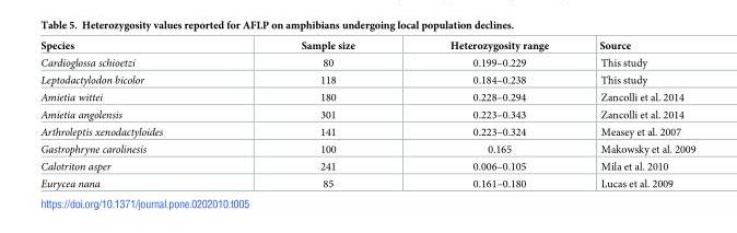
<table><thead><tr><td>Species</td><td>Sample size</td><td>Heterozygosity range</td><td>Source</td></tr></thead><tbody><tr><td>Cardioglossa schioetzi</td><td>80</td><td>0.199–0.229</td><td>This study</td></tr><tr><td>Leptodactylodon bicolor</td><td>118</td><td>0.184–0.238</td><td>This study</td></tr><tr><td>Amietia wittei</td><td>180</td><td>0.228–0.294</td><td>Zancolli et al. 2014</td></tr><tr><td>Amietia angolensis</td><td>301</td><td>0.223–0.343</td><td>Zancolli et al. 2014</td></tr><tr><td>Arthroleptis xenodactyloides</td><td>141</td><td>0.223–0.324</td><td>Measey et al. 2007</td></tr><tr><td>Gastrophryne carolinesis</td><td>100</td><td>0.165</td><td>Makowsky et al. 2009</td></tr><tr><td>Calotriton asper</td><td>241</td><td>0.006–0.105</td><td>Mila et al. 2010</td></tr><tr><td>Eurycea nana</td><td>85</td><td>0.161–0.180</td><td>Lucas et al. 2009</td></tr></tbody></table>